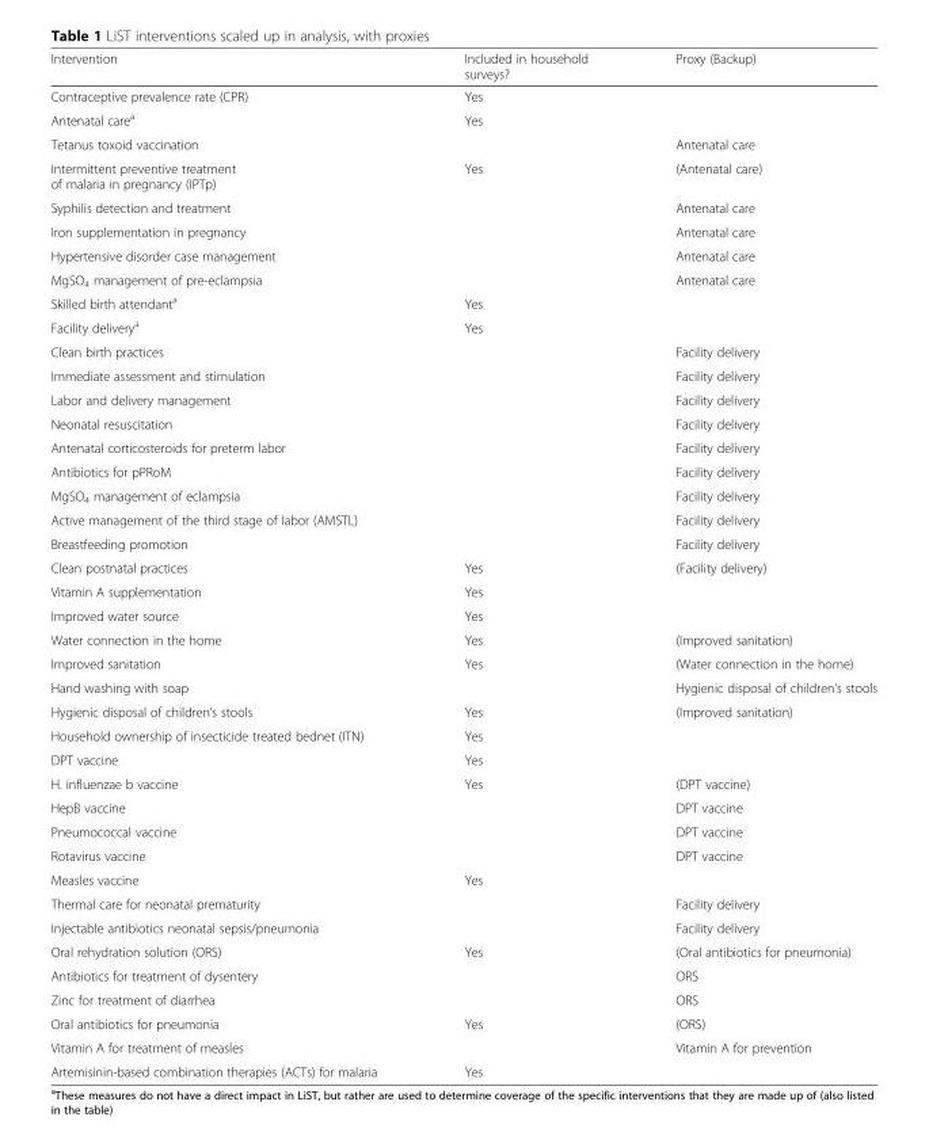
<table><thead><tr><td>Intervention</td><td>Included in household surveys?</td><td>Proxy (Backup)</td></tr></thead><tbody><tr><td>Contraceptive prevalence rate (CPR)</td><td>Yes</td><td></td></tr><tr><td>Antenatal care<sup>a</sup></td><td>Yes</td><td></td></tr><tr><td>Tetanus toxoid vaccination</td><td></td><td>Antenatal care</td></tr><tr><td>Intermittent preventive treatment of malaria in pregnancy (IPTp)</td><td>Yes</td><td>(Antenatal care)</td></tr><tr><td>Syphilis detection and treatment</td><td></td><td>Antenatal care</td></tr><tr><td>Iron supplementation in pregnancy</td><td></td><td>Antenatal care</td></tr><tr><td>Hypertensive disorder case management</td><td></td><td>Antenatal care</td></tr><tr><td>MgSO<sub>4</sub> management of pre-eclampsia</td><td></td><td>Antenatal care</td></tr><tr><td>Skilled birth attendant<sup>a</sup></td><td>Yes</td><td></td></tr><tr><td>Facility delivery<sup>a</sup></td><td>Yes</td><td></td></tr><tr><td>Clean birth practices</td><td></td><td>Facility delivery</td></tr><tr><td>Immediate assessment and stimulation</td><td></td><td>Facility delivery</td></tr><tr><td>Labor and delivery management</td><td></td><td>Facility delivery</td></tr><tr><td>Neonatal resuscitation</td><td></td><td>Facility delivery</td></tr><tr><td>Antenatal corticosteroids for preterm labor</td><td></td><td>Facility delivery</td></tr><tr><td>Antibiotics for pPRoM</td><td></td><td>Facility delivery</td></tr><tr><td>MgSO<sub>4</sub> management of eclampsia</td><td></td><td>Facility delivery</td></tr><tr><td>Active management of the third stage of labor (AMSTL)</td><td></td><td>Facility delivery</td></tr><tr><td>Breastfeeding promotion</td><td></td><td>Facility delivery</td></tr><tr><td>Clean postnatal practices</td><td>Yes</td><td>(Facility delivery)</td></tr><tr><td>Vitamin A supplementation</td><td>Yes</td><td></td></tr><tr><td>Improved water source</td><td>Yes</td><td></td></tr><tr><td>Water connection in the home</td><td>Yes</td><td>(Improved sanitation)</td></tr><tr><td>Improved sanitation</td><td>Yes</td><td>(Water connection in the home)</td></tr><tr><td>Hand washing with soap</td><td></td><td>Hygienic disposal of children’s stools</td></tr><tr><td>Hygienic disposal of children’s stools</td><td>Yes</td><td>(Improved sanitation)</td></tr><tr><td>Household ownership of insecticide treated bednet (ITN)</td><td>Yes</td><td></td></tr><tr><td>DPT vaccine</td><td>Yes</td><td></td></tr><tr><td>H. influenzae b vaccine</td><td>Yes</td><td>(DPT vaccine)</td></tr><tr><td>HepB vaccine</td><td></td><td>DPT vaccine</td></tr><tr><td>Pneumococcal vaccine</td><td></td><td>DPT vaccine</td></tr><tr><td>Rotavirus vaccine</td><td></td><td>DPT vaccine</td></tr><tr><td>Measles vaccine</td><td>Yes</td><td></td></tr><tr><td>Thermal care for neonatal prematurity</td><td></td><td>Facility delivery</td></tr><tr><td>Injectable antibiotics neonatal sepsis/pneumonia</td><td></td><td>Facility delivery</td></tr><tr><td>Oral rehydration solution (ORS)</td><td>Yes</td><td>(Oral antibiotics for pneumonia)</td></tr><tr><td>Antibiotics for treatment of dysentery</td><td></td><td>ORS</td></tr><tr><td>Zinc for treatment of diarrhea</td><td></td><td>ORS</td></tr><tr><td>Oral antibiotics for pneumonia</td><td>Yes</td><td>(ORS)</td></tr><tr><td>Vitamin A for treatment of measles</td><td></td><td>Vitamin A for prevention</td></tr><tr><td>Artemisinin-based combination therapies (ACTs) for malaria</td><td>Yes</td><td></td></tr></tbody></table>